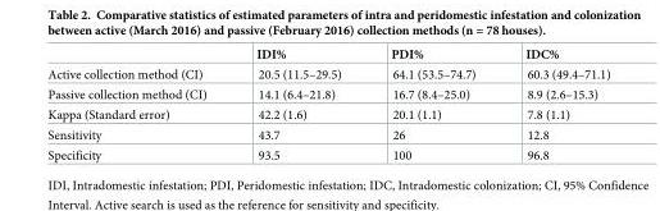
<table><thead><tr><td></td><td>IDI%</td><td>PDI%</td><td>IDC%</td></tr></thead><tbody><tr><td>Active collection method (CI)</td><td>20.5 (11.5–29.5)</td><td>64.1 (53.5–74.7)</td><td>60.3 (49.4–71.1)</td></tr><tr><td>Passive collection method (CI)</td><td>14.1 (6.4–21.8)</td><td>16.7 (8.4–25.0)</td><td>8.9 (2.6–15.3)</td></tr><tr><td>Kappa (Standard error)</td><td>42.2 (1.6)</td><td>20.1 (1.1)</td><td>7.8 (1.1)</td></tr><tr><td>Sensitivity</td><td>43.7</td><td>26</td><td>12.8</td></tr><tr><td>Specificity</td><td>93.5</td><td>100</td><td>96.8</td></tr></tbody></table>